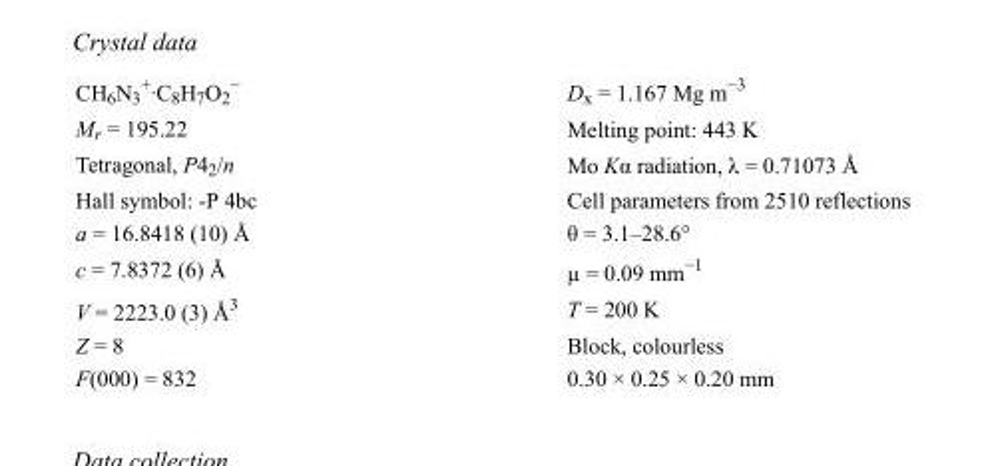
<table><tbody><tr><td>CH<sub>6</sub>N<sub>3</sub> <sup>+</sup>·C<sub>8</sub>H<sub>7</sub>O<sub>2</sub> <sup>−</sup></td><td>D<sub>x</sub> = 1.167 Mg m<sup>−3</sup></td></tr><tr><td>M<sub>r</sub> = 195.22</td><td>Melting point: 443 K</td></tr><tr><td>Tetragonal, P4<sub>2</sub>/n</td><td>Mo Kα radiation, λ = 0.71073 Å</td></tr><tr><td>Hall symbol: -P 4bc</td><td>Cell parameters from 2510 reflections</td></tr><tr><td>a = 16.8418 (10) Å</td><td>θ = 3.1–28.6°</td></tr><tr><td>c = 7.8372 (6) Å</td><td>µ = 0.09 mm<sup>−1</sup></td></tr><tr><td>V = 2223.0 (3) Å<sup>3</sup></td><td>T = 200 K</td></tr><tr><td>Z = 8</td><td>Block, colourless</td></tr><tr><td>F(000) = 832</td><td>0.30 × 0.25 × 0.20 mm</td></tr></tbody></table>